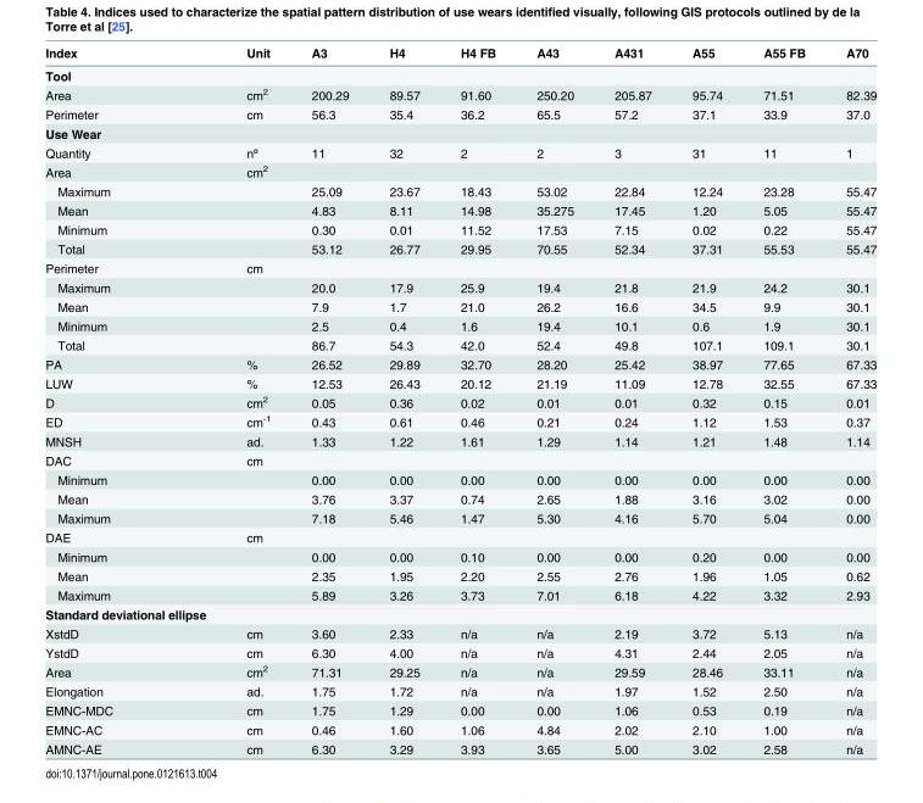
<table><thead><tr><td>Index</td><td>Unit</td><td>A3</td><td>H4</td><td>H4 FB</td><td>A43</td><td>A431</td><td>A55</td><td>A55 FB</td><td>A70</td></tr></thead><tbody><tr><td colspan="10">Tool</td></tr><tr><td>Area</td><td>cm<sup>2</sup></td><td>200.29</td><td>89.57</td><td>91.60</td><td>250.20</td><td>205.87</td><td>95.74</td><td>71.51</td><td>82.39</td></tr><tr><td>Perimeter</td><td>cm</td><td>56.3</td><td>35.4</td><td>36.2</td><td>65.5</td><td>57.2</td><td>37.1</td><td>33.9</td><td>37.0</td></tr><tr><td colspan="10">Use Wear</td></tr><tr><td>Quantity</td><td>nº</td><td>11</td><td>32</td><td>2</td><td>2</td><td>3</td><td>31</td><td>11</td><td>1</td></tr><tr><td>Area</td><td>cm<sup>2</sup></td><td></td><td></td><td></td><td></td><td></td><td></td><td></td><td></td></tr><tr><td>Maximum</td><td></td><td>25.09</td><td>23.67</td><td>18.43</td><td>53.02</td><td>22.84</td><td>12.24</td><td>23.28</td><td>55.47</td></tr><tr><td>Mean</td><td></td><td>4.83</td><td>8.11</td><td>14.98</td><td>35.275</td><td>17.45</td><td>1.20</td><td>5.05</td><td>55.47</td></tr><tr><td>Minimum</td><td></td><td>0.30</td><td>0.01</td><td>11.52</td><td>17.53</td><td>7.15</td><td>0.02</td><td>0.22</td><td>55.47</td></tr><tr><td>Total</td><td></td><td>53.12</td><td>26.77</td><td>29.95</td><td>70.55</td><td>52.34</td><td>37.31</td><td>55.53</td><td>55.47</td></tr><tr><td>Perimeter</td><td>cm</td><td></td><td></td><td></td><td></td><td></td><td></td><td></td><td></td></tr><tr><td>Maximum</td><td></td><td>20.0</td><td>17.9</td><td>25.9</td><td>19.4</td><td>21.8</td><td>21.9</td><td>24.2</td><td>30.1</td></tr><tr><td>Mean</td><td></td><td>7.9</td><td>1.7</td><td>21.0</td><td>26.2</td><td>16.6</td><td>34.5</td><td>9.9</td><td>30.1</td></tr><tr><td>Minimum</td><td></td><td>2.5</td><td>0.4</td><td>1.6</td><td>19.4</td><td>10.1</td><td>0.6</td><td>1.9</td><td>30.1</td></tr><tr><td>Total</td><td></td><td>86.7</td><td>54.3</td><td>42.0</td><td>52.4</td><td>49.8</td><td>107.1</td><td>109.1</td><td>30.1</td></tr><tr><td>PA</td><td>%</td><td>26.52</td><td>29.89</td><td>32.70</td><td>28.20</td><td>25.42</td><td>38.97</td><td>77.65</td><td>67.33</td></tr><tr><td>LUW</td><td>%</td><td>12.53</td><td>26.43</td><td>20.12</td><td>21.19</td><td>11.09</td><td>12.78</td><td>32.55</td><td>67.33</td></tr><tr><td>D</td><td>cm<sup>2</sup></td><td>0.05</td><td>0.36</td><td>0.02</td><td>0.01</td><td>0.01</td><td>0.32</td><td>0.15</td><td>0.01</td></tr><tr><td>ED</td><td>cm<sup>-1</sup></td><td>0.43</td><td>0.61</td><td>0.46</td><td>0.21</td><td>0.24</td><td>1.12</td><td>1.53</td><td>0.37</td></tr><tr><td>MNSH</td><td>ad.</td><td>1.33</td><td>1.22</td><td>1.61</td><td>1.29</td><td>1.14</td><td>1.21</td><td>1.48</td><td>1.14</td></tr><tr><td>DAC</td><td>cm</td><td></td><td></td><td></td><td></td><td></td><td></td><td></td><td></td></tr><tr><td>Minimum</td><td></td><td>0.00</td><td>0.00</td><td>0.00</td><td>0.00</td><td>0.00</td><td>0.00</td><td>0.00</td><td>0.00</td></tr><tr><td>Mean</td><td></td><td>3.76</td><td>3.37</td><td>0.74</td><td>2.65</td><td>1.88</td><td>3.16</td><td>3.02</td><td>0.00</td></tr><tr><td>Maximum</td><td></td><td>7.18</td><td>5.46</td><td>1.47</td><td>5.30</td><td>4.16</td><td>5.70</td><td>5.04</td><td>0.00</td></tr><tr><td>DAE</td><td>cm</td><td></td><td></td><td></td><td></td><td></td><td></td><td></td><td></td></tr><tr><td>Minimum</td><td></td><td>0.00</td><td>0.00</td><td>0.10</td><td>0.00</td><td>0.00</td><td>0.20</td><td>0.00</td><td>0.00</td></tr><tr><td>Mean</td><td></td><td>2.35</td><td>1.95</td><td>2.20</td><td>2.55</td><td>2.76</td><td>1.96</td><td>1.05</td><td>0.62</td></tr><tr><td>Maximum</td><td></td><td>5.89</td><td>3.26</td><td>3.73</td><td>7.01</td><td>6.18</td><td>4.22</td><td>3.32</td><td>2.93</td></tr><tr><td colspan="10">Standard deviational ellipse</td></tr><tr><td>XstdD</td><td>cm</td><td>3.60</td><td>2.33</td><td>n/a</td><td>n/a</td><td>2.19</td><td>3.72</td><td>5.13</td><td>n/a</td></tr><tr><td>YstdD</td><td>cm</td><td>6.30</td><td>4.00</td><td>n/a</td><td>n/a</td><td>4.31</td><td>2.44</td><td>2.05</td><td>n/a</td></tr><tr><td>Area</td><td>cm<sup>2</sup></td><td>71.31</td><td>29.25</td><td>n/a</td><td>n/a</td><td>29.59</td><td>28.46</td><td>33.11</td><td>n/a</td></tr><tr><td>Elongation</td><td>ad.</td><td>1.75</td><td>1.72</td><td>n/a</td><td>n/a</td><td>1.97</td><td>1.52</td><td>2.50</td><td>n/a</td></tr><tr><td>EMNC-MDC</td><td>cm</td><td>1.75</td><td>1.29</td><td>0.00</td><td>0.00</td><td>1.06</td><td>0.53</td><td>0.19</td><td>n/a</td></tr><tr><td>EMNC-AC</td><td>cm</td><td>0.46</td><td>1.60</td><td>1.06</td><td>4.84</td><td>2.02</td><td>2.10</td><td>1.00</td><td>n/a</td></tr><tr><td>AMNC-AE</td><td>cm</td><td>6.30</td><td>3.29</td><td>3.93</td><td>3.65</td><td>5.00</td><td>3.02</td><td>2.58</td><td>n/a</td></tr></tbody></table>